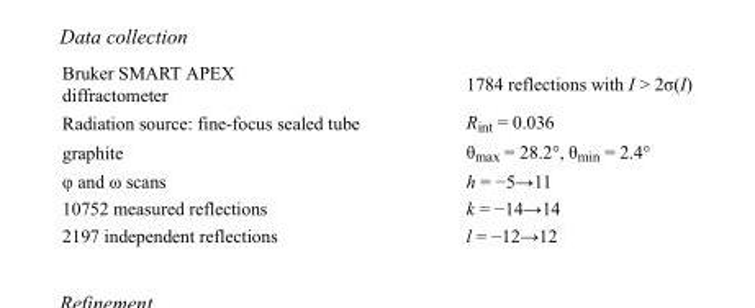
<table><tbody><tr><td>Bruker SMART APEX diffractometer</td><td>1784 reflections with I &gt; 2σ(I)</td></tr><tr><td>Radiation source: fine-focus sealed tube</td><td>R<sub>int</sub> = 0.036</td></tr><tr><td>graphite</td><td>θ<sub>max</sub> = 28.2°, θ<sub>min</sub> = 2.4°</td></tr><tr><td>φ and ω scans</td><td>h = −5→11</td></tr><tr><td>10752 measured reflections</td><td>k = −14→14</td></tr><tr><td>2197 independent reflections</td><td>l = −12→12</td></tr></tbody></table>